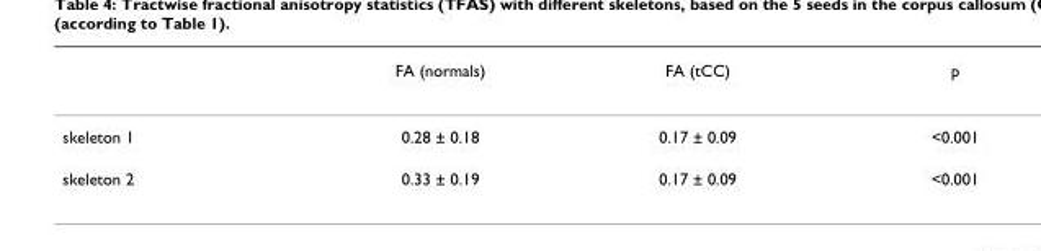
<table><thead><tr><td></td><td>FA (normals)</td><td>FA (tCC)</td><td>p</td></tr></thead><tbody><tr><td>skeleton 1</td><td>0.28 ± 0.18</td><td>0.17 ± 0.09</td><td>&lt;0.001</td></tr><tr><td>skeleton 2</td><td>0.33 ± 0.19</td><td>0.17 ± 0.09</td><td>&lt;0.001</td></tr></tbody></table>